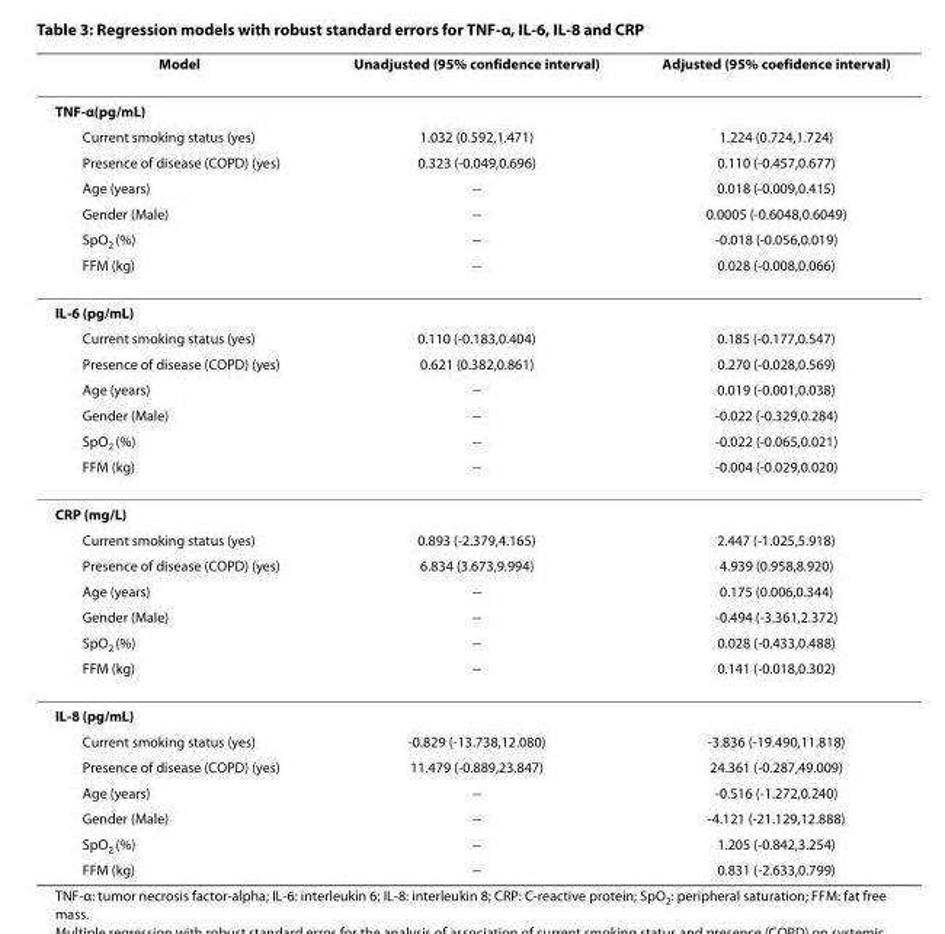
<table><thead><tr><td>Model</td><td>Unadjusted (95% confidence interval)</td><td>Adjusted (95% coefidence interval)</td></tr></thead><tbody><tr><td colspan="3">TNF-α(pg/mL)</td></tr><tr><td>Current smoking status (yes)</td><td>1.032 (0.592,1.471)</td><td>1.224 (0.724,1.724)</td></tr><tr><td>Presence of disease (COPD) (yes)</td><td>0.323 (-0.049,0.696)</td><td>0.110 (-0.457,0.677)</td></tr><tr><td>Age (years)</td><td>--</td><td>0.018 (-0.009,0.415)</td></tr><tr><td>Gender (Male)</td><td>--</td><td>0.0005 (-0.6048,0.6049)</td></tr><tr><td>SpO<sub>2</sub> (%)</td><td>--</td><td>-0.018 (-0.056,0.019)</td></tr><tr><td>FFM (kg)</td><td>--</td><td>0.028 (-0.008,0.066)</td></tr><tr><td colspan="3">IL-6 (pg/mL)</td></tr><tr><td>Current smoking status (yes)</td><td>0.110 (-0.183,0.404)</td><td>0.185 (-0.177,0.547)</td></tr><tr><td>Presence of disease (COPD) (yes)</td><td>0.621 (0.382,0.861)</td><td>0.270 (-0.028,0.569)</td></tr><tr><td>Age (years)</td><td>--</td><td>0.019 (-0.001,0.038)</td></tr><tr><td>Gender (Male)</td><td>--</td><td>-0.022 (-0.329,0.284)</td></tr><tr><td>SpO<sub>2</sub> (%)</td><td>--</td><td>-0.022 (-0.065,0.021)</td></tr><tr><td>FFM (kg)</td><td>--</td><td>-0.004 (-0.029,0.020)</td></tr><tr><td colspan="3">CRP (mg/L)</td></tr><tr><td>Current smoking status (yes)</td><td>0.893 (-2.379,4.165)</td><td>2.447 (-1.025,5.918)</td></tr><tr><td>Presence of disease (COPD) (yes)</td><td>6.834 (3.673,9.994)</td><td>4.939 (0.958,8.920)</td></tr><tr><td>Age (years)</td><td>--</td><td>0.175 (0.006,0.344)</td></tr><tr><td>Gender (Male)</td><td>--</td><td>-0.494 (-3.361,2.372)</td></tr><tr><td>SpO<sub>2</sub> (%)</td><td>--</td><td>0.028 (-0.433,0.488)</td></tr><tr><td>FFM (kg)</td><td>--</td><td>0.141 (-0.018,0.302)</td></tr><tr><td colspan="3">IL-8 (pg/mL)</td></tr><tr><td>Current smoking status (yes)</td><td>-0.829 (-13.738,12.080)</td><td>-3.836 (-19.490,11.818)</td></tr><tr><td>Presence of disease (COPD) (yes)</td><td>11.479 (-0.889,23.847)</td><td>24.361 (-0.287,49.009)</td></tr><tr><td>Age (years)</td><td>--</td><td>-0.516 (-1.272,0.240)</td></tr><tr><td>Gender (Male)</td><td>--</td><td>-4.121 (-21.129,12.888)</td></tr><tr><td>SpO<sub>2</sub> (%)</td><td>--</td><td>1.205 (-0.842,3.254)</td></tr><tr><td>FFM (kg)</td><td>--</td><td>0.831 (-2.633,0.799)</td></tr></tbody></table>